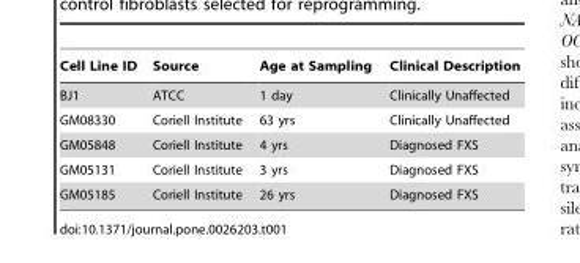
<table><thead><tr><td>Cell Line ID</td><td>Source</td><td>Age at Sampling</td><td>Clinical Description</td></tr></thead><tbody><tr><td>BJ1</td><td>ATCC</td><td>1 day</td><td>Clinically Unaffected</td></tr><tr><td>GM08330</td><td>Coriell Institute</td><td>63 yrs</td><td>Clinically Unaffected</td></tr><tr><td>GM05848</td><td>Coriell Institute</td><td>4 yrs</td><td>Diagnosed FXS</td></tr><tr><td>GM05131</td><td>Coriell Institute</td><td>3 yrs</td><td>Diagnosed FXS</td></tr><tr><td>GM05185</td><td>Coriell Institute</td><td>26 yrs</td><td>Diagnosed FXS</td></tr></tbody></table>